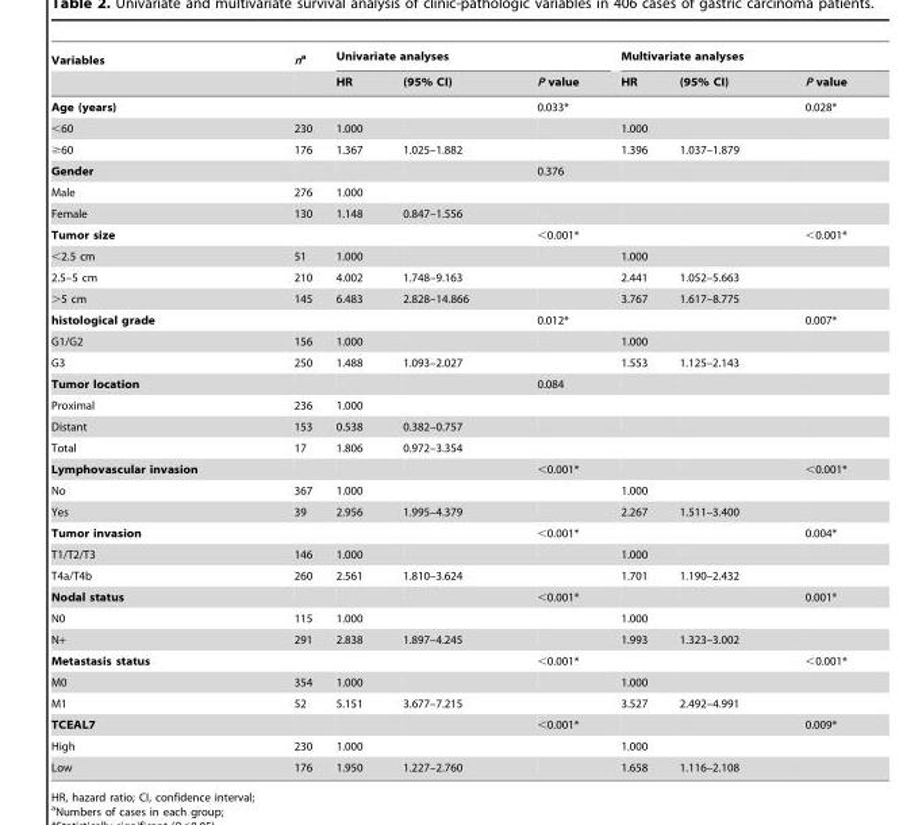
<table><thead><tr><td rowspan="2">Variables</td><td rowspan="2">na</td><td colspan="3">Univariate analyses</td><td colspan="3">Multivariate analyses</td></tr><tr><td>HR</td><td>(95% CI)</td><td>P value</td><td>HR</td><td>(95% CI)</td><td>P value</td></tr></thead><tbody><tr><td>Age (years)</td><td></td><td></td><td></td><td>0.033*</td><td></td><td></td><td>0.028*</td></tr><tr><td>&lt;60</td><td>230</td><td>1.000</td><td></td><td></td><td>1.000</td><td></td><td></td></tr><tr><td>≥60</td><td>176</td><td>1.367</td><td>1.025–1.882</td><td></td><td>1.396</td><td>1.037–1.879</td><td></td></tr><tr><td>Gender</td><td></td><td></td><td></td><td>0.376</td><td></td><td></td><td></td></tr><tr><td>Male</td><td>276</td><td>1.000</td><td></td><td></td><td></td><td></td><td></td></tr><tr><td>Female</td><td>130</td><td>1.148</td><td>0.847–1.556</td><td></td><td></td><td></td><td></td></tr><tr><td>Tumor size</td><td></td><td></td><td></td><td>&lt;0.001*</td><td></td><td></td><td>&lt;0.001*</td></tr><tr><td>&lt;2.5 cm</td><td>51</td><td>1.000</td><td></td><td></td><td>1.000</td><td></td><td></td></tr><tr><td>2.5–5 cm</td><td>210</td><td>4.002</td><td>1.748–9.163</td><td></td><td>2.441</td><td>1.052–5.663</td><td></td></tr><tr><td>&gt;5 cm</td><td>145</td><td>6.483</td><td>2.828–14.866</td><td></td><td>3.767</td><td>1.617–8.775</td><td></td></tr><tr><td>histological grade</td><td></td><td></td><td></td><td>0.012*</td><td></td><td></td><td>0.007*</td></tr><tr><td>G1/G2</td><td>156</td><td>1.000</td><td></td><td></td><td>1.000</td><td></td><td></td></tr><tr><td>G3</td><td>250</td><td>1.488</td><td>1.093–2.027</td><td></td><td>1.553</td><td>1.125–2.143</td><td></td></tr><tr><td>Tumor location</td><td></td><td></td><td></td><td>0.084</td><td></td><td></td><td></td></tr><tr><td>Proximal</td><td>236</td><td>1.000</td><td></td><td></td><td></td><td></td><td></td></tr><tr><td>Distant</td><td>153</td><td>0.538</td><td>0.382–0.757</td><td></td><td></td><td></td><td></td></tr><tr><td>Total</td><td>17</td><td>1.806</td><td>0.972–3.354</td><td></td><td></td><td></td><td></td></tr><tr><td>Lymphovascular invasion</td><td></td><td></td><td></td><td>&lt;0.001*</td><td></td><td></td><td>&lt;0.001*</td></tr><tr><td>No</td><td>367</td><td>1.000</td><td></td><td></td><td>1.000</td><td></td><td></td></tr><tr><td>Yes</td><td>39</td><td>2.956</td><td>1.995–4.379</td><td></td><td>2.267</td><td>1.511–3.400</td><td></td></tr><tr><td>Tumor invasion</td><td></td><td></td><td></td><td>&lt;0.001*</td><td></td><td></td><td>0.004*</td></tr><tr><td>T1/T2/T3</td><td>146</td><td>1.000</td><td></td><td></td><td>1.000</td><td></td><td></td></tr><tr><td>T4a/T4b</td><td>260</td><td>2.561</td><td>1.810–3.624</td><td></td><td>1.701</td><td>1.190–2.432</td><td></td></tr><tr><td>Nodal status</td><td></td><td></td><td></td><td>&lt;0.001*</td><td></td><td></td><td>0.001*</td></tr><tr><td>N0</td><td>115</td><td>1.000</td><td></td><td></td><td>1.000</td><td></td><td></td></tr><tr><td>N+</td><td>291</td><td>2.838</td><td>1.897–4.245</td><td></td><td>1.993</td><td>1.323–3.002</td><td></td></tr><tr><td>Metastasis status</td><td></td><td></td><td></td><td>&lt;0.001*</td><td></td><td></td><td>&lt;0.001*</td></tr><tr><td>M0</td><td>354</td><td>1.000</td><td></td><td></td><td>1.000</td><td></td><td></td></tr><tr><td>M1</td><td>52</td><td>5.151</td><td>3.677–7.215</td><td></td><td>3.527</td><td>2.492–4.991</td><td></td></tr><tr><td>TCEAL7</td><td></td><td></td><td></td><td>&lt;0.001*</td><td></td><td></td><td>0.009*</td></tr><tr><td>High</td><td>230</td><td>1.000</td><td></td><td></td><td>1.000</td><td></td><td></td></tr><tr><td>Low</td><td>176</td><td>1.950</td><td>1.227–2.760</td><td></td><td>1.658</td><td>1.116–2.108</td><td></td></tr></tbody></table>